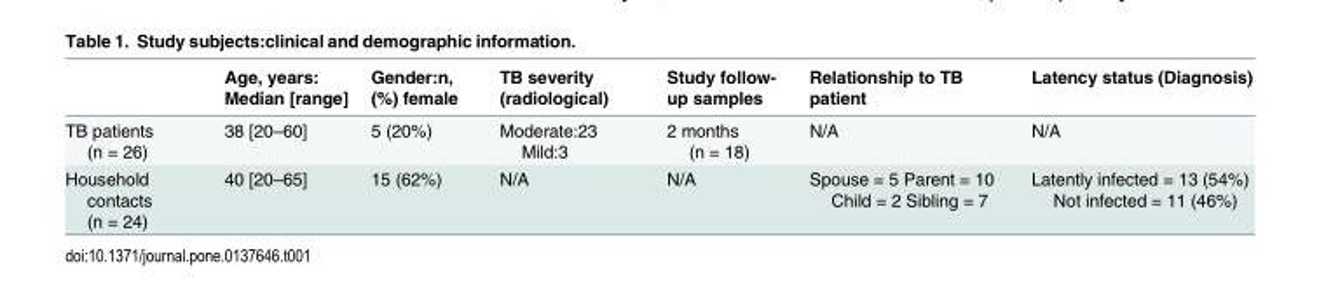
<table><thead><tr><td></td><td>Age, years: Median [range]</td><td>Gender:n, (%) female</td><td>TB severity (radiological)</td><td>Study follow- up samples</td><td>Relationship to TB patient</td><td>Latency status (Diagnosis)</td></tr></thead><tbody><tr><td>TB patients (n = 26)</td><td>38 [20–60]</td><td>5 (20%)</td><td>Moderate:23 Mild:3</td><td>2 months (n = 18)</td><td>N/A</td><td>N/A</td></tr><tr><td>Household contacts (n = 24)</td><td>40 [20–65]</td><td>15 (62%)</td><td>N/A</td><td>N/A</td><td>Spouse = 5 Parent = 10 Child = 2 Sibling = 7</td><td>Latently infected = 13 (54%) Not infected = 11 (46%)</td></tr></tbody></table>